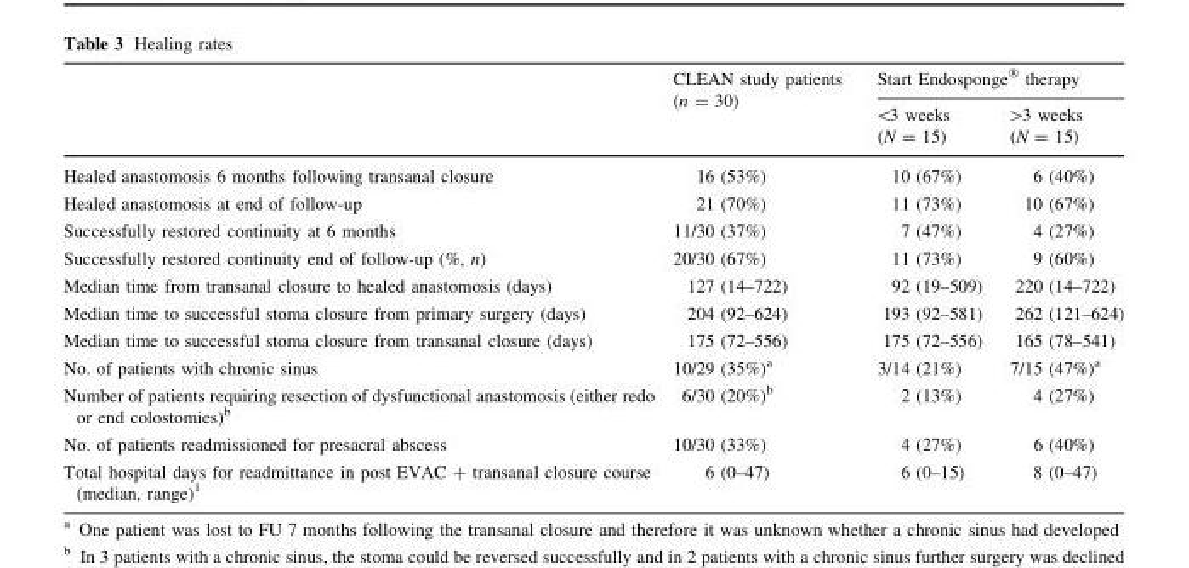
<table><thead><tr><td rowspan="2"></td><td rowspan="2">CLEAN study patients (n = 30)</td><td colspan="2">Start Endosponge<sup>®</sup> therapy</td></tr><tr><td>&lt;3 weeks (N = 15)</td><td>&gt;3 weeks (N = 15)</td></tr></thead><tbody><tr><td>Healed anastomosis 6 months following transanal closure</td><td>16 (53%)</td><td>10 (67%)</td><td>6 (40%)</td></tr><tr><td>Healed anastomosis at end of follow-up</td><td>21 (70%)</td><td>11 (73%)</td><td>10 (67%)</td></tr><tr><td>Successfully restored continuity at 6 months</td><td>11/30 (37%)</td><td>7 (47%)</td><td>4 (27%)</td></tr><tr><td>Successfully restored continuity end of follow-up (%, n)</td><td>20/30 (67%)</td><td>11 (73%)</td><td>9 (60%)</td></tr><tr><td>Median time from transanal closure to healed anastomosis (days)</td><td>127 (14–722)</td><td>92 (19–509)</td><td>220 (14–722)</td></tr><tr><td>Median time to successful stoma closure from primary surgery (days)</td><td>204 (92–624)</td><td>193 (92–581)</td><td>262 (121–624)</td></tr><tr><td>Median time to successful stoma closure from transanal closure (days)</td><td>175 (72–556)</td><td>175 (72–556)</td><td>165 (78–541)</td></tr><tr><td>No. of patients with chronic sinus</td><td>10/29 (35%)<sup>a</sup></td><td>3/14 (21%)</td><td>7/15 (47%)<sup>a</sup></td></tr><tr><td>Number of patients requiring resection of dysfunctional anastomosis (either redo or end colostomies)<sup>b</sup></td><td>6/30 (20%)<sup>b</sup></td><td>2 (13%)</td><td>4 (27%)</td></tr><tr><td>No. of patients readmissioned for presacral abscess</td><td>10/30 (33%)</td><td>4 (27%)</td><td>6 (40%)</td></tr><tr><td>Total hospital days for readmittance in post EVAC + transanal closure course (median, range)<sup>1</sup></td><td>6 (0–47)</td><td>6 (0–15)</td><td>8 (0–47)</td></tr></tbody></table>